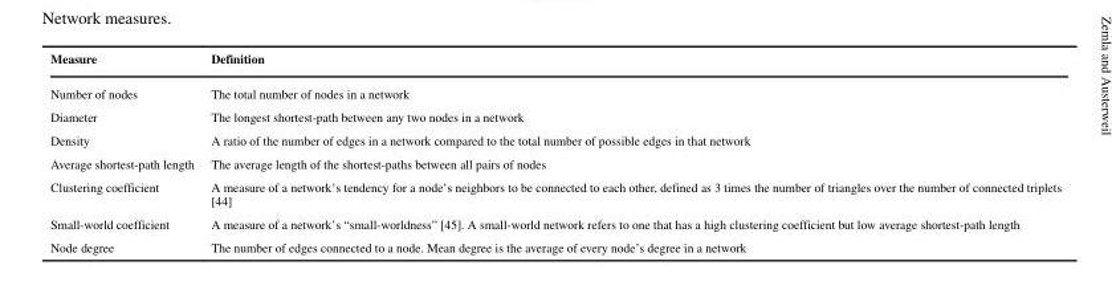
<table><thead><tr><td>Measure</td><td>Definition</td></tr></thead><tbody><tr><td>Number of nodes</td><td>The total number of nodes in a network</td></tr><tr><td>Diameter</td><td>The longest shortest-path between any two nodes in a network</td></tr><tr><td>Density</td><td>A ratio of the number of edges in a network compared to the total number of possible edges in that network</td></tr><tr><td>Average shortest-path length</td><td>The average length of the shortest-paths between all pairs of nodes</td></tr><tr><td>Clustering coefficient</td><td>A measure of a network’s tendency for a node’s neighbors to be connected to each other, defined as 3 times the number of triangles over the number of connected triplets [44]</td></tr><tr><td>Small-world coefficient</td><td>A measure of a network’s “small-worldness” [45]. A small-world network refers to one that has a high clustering coefficient but low average shortest-path length</td></tr><tr><td>Node degree</td><td>The number of edges connected to a node. Mean degree is the average of every node’s degree in a network</td></tr></tbody></table>